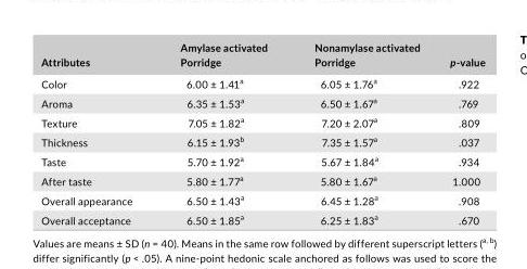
<table><thead><tr><td>Attributes</td><td>Amylase activated Porridge</td><td>Nonamylase activated Porridge</td><td>p- value</td></tr></thead><tbody><tr><td>Color</td><td>6.00 ± 1.41<sup>a</sup></td><td>6.05 ± 1.76<sup>a</sup></td><td>.922</td></tr><tr><td>Aroma</td><td>6.35 ± 1.53<sup>a</sup></td><td>6.50 ± 1.67<sup>a</sup></td><td>.769</td></tr><tr><td>Texture</td><td>7.05 ± 1.82<sup>a</sup></td><td>7.20 ± 2.07<sup>a</sup></td><td>.809</td></tr><tr><td>Thickness</td><td>6.15 ± 1.93<sup>b</sup></td><td>7.35 ± 1.57<sup>a</sup></td><td>.037</td></tr><tr><td>Taste</td><td>5.70 ± 1.92<sup>a</sup></td><td>5.67 ± 1.84<sup>a</sup></td><td>.934</td></tr><tr><td>After taste</td><td>5.80 ± 1.77<sup>a</sup></td><td>5.80 ± 1.67<sup>a</sup></td><td>1.000</td></tr><tr><td>Overall appearance</td><td>6.50 ± 1.43<sup>a</sup></td><td>6.45 ± 1.28<sup>a</sup></td><td>.908</td></tr><tr><td>Overall acceptance</td><td>6.50 ± 1.85<sup>a</sup></td><td>6.25 ± 1.83<sup>a</sup></td><td>.670</td></tr></tbody></table>